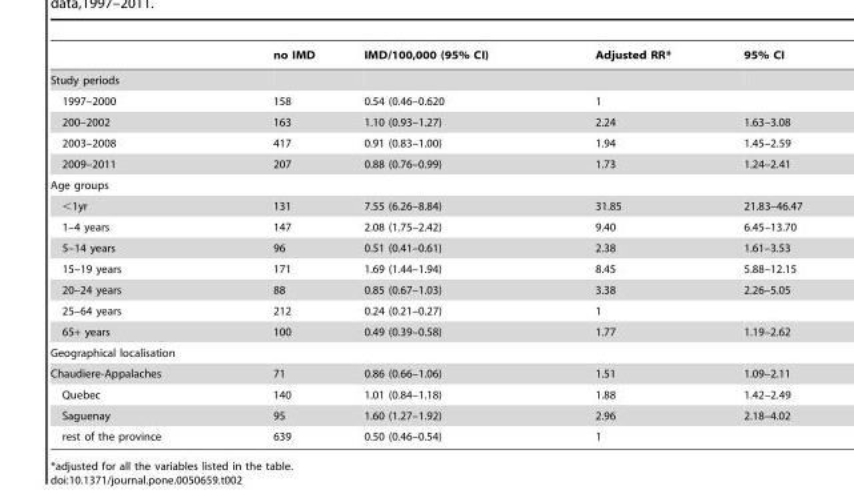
<table><thead><tr><td></td><td>no IMD</td><td>IMD/100,000 (95% CI)</td><td>Adjusted RR*</td><td>95% CI</td></tr></thead><tbody><tr><td colspan="5">Study periods</td></tr><tr><td>1997–2000</td><td>158</td><td>0.54 (0.46–0.620</td><td>1</td><td></td></tr><tr><td>200–2002</td><td>163</td><td>1.10 (0.93–1.27)</td><td>2.24</td><td>1.63–3.08</td></tr><tr><td>2003–2008</td><td>417</td><td>0.91 (0.83–1.00)</td><td>1.94</td><td>1.45–2.59</td></tr><tr><td>2009–2011</td><td>207</td><td>0.88 (0.76–0.99)</td><td>1.73</td><td>1.24–2.41</td></tr><tr><td colspan="5">Age groups</td></tr><tr><td>&lt;1yr</td><td>131</td><td>7.55 (6.26–8.84)</td><td>31.85</td><td>21.83–46.47</td></tr><tr><td>1–4 years</td><td>147</td><td>2.08 (1.75–2.42)</td><td>9.40</td><td>6.45–13.70</td></tr><tr><td>5–14 years</td><td>96</td><td>0.51 (0.41–0.61)</td><td>2.38</td><td>1.61–3.53</td></tr><tr><td>15–19 years</td><td>171</td><td>1.69 (1.44–1.94)</td><td>8.45</td><td>5.88–12.15</td></tr><tr><td>20–24 years</td><td>88</td><td>0.85 (0.67–1.03)</td><td>3.38</td><td>2.26–5.05</td></tr><tr><td>25–64 years</td><td>212</td><td>0.24 (0.21–0.27)</td><td>1</td><td></td></tr><tr><td>65+ years</td><td>100</td><td>0.49 (0.39–0.58)</td><td>1.77</td><td>1.19–2.62</td></tr><tr><td colspan="5">Geographical localisation</td></tr><tr><td>Chaudiere-Appalaches</td><td>71</td><td>0.86 (0.66–1.06)</td><td>1.51</td><td>1.09–2.11</td></tr><tr><td>Quebec</td><td>140</td><td>1.01 (0.84–1.18)</td><td>1.88</td><td>1.42–2.49</td></tr><tr><td>Saguenay</td><td>95</td><td>1.60 (1.27–1.92)</td><td>2.96</td><td>2.18–4.02</td></tr><tr><td>rest of the province</td><td>639</td><td>0.50 (0.46–0.54)</td><td>1</td><td></td></tr></tbody></table>